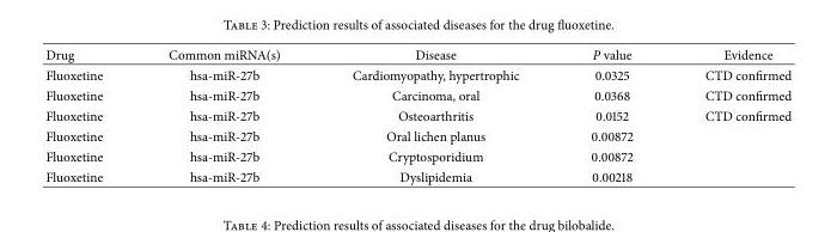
<table><thead><tr><td>Drug</td><td>Common miRNA(s)</td><td>Disease</td><td>P value</td><td>Evidence</td></tr></thead><tbody><tr><td>Fluoxetine</td><td>hsa-miR-27b</td><td>Cardiomyopathy, hypertrophic</td><td>0.0325</td><td>CTD confirmed</td></tr><tr><td>Fluoxetine</td><td>hsa-miR-27b</td><td>Carcinoma, oral</td><td>0.0368</td><td>CTD confirmed</td></tr><tr><td>Fluoxetine</td><td>hsa-miR-27b</td><td>Osteoarthritis</td><td>0.0152</td><td>CTD confirmed</td></tr><tr><td>Fluoxetine</td><td>hsa-miR-27b</td><td>Oral lichen planus</td><td>0.00872</td><td></td></tr><tr><td>Fluoxetine</td><td>hsa-miR-27b</td><td>Cryptosporidium</td><td>0.00872</td><td></td></tr><tr><td>Fluoxetine</td><td>hsa-miR-27b</td><td>Dyslipidemia</td><td>0.00218</td><td></td></tr></tbody></table>